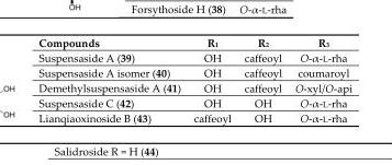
<table><tbody><tr><td>Compounds</td><td>R<sub>1</sub></td><td>R<sub>2</sub></td><td>R<sub>3</sub></td></tr><tr><td>Suspensaside A (39)</td><td>OH</td><td>caffeoyl</td><td>O-α-L-rha</td></tr><tr><td>Suspensaside A isomer (40)</td><td>OH</td><td>caffeoyl</td><td>coumaroyl</td></tr><tr><td>Demethylsuspensaside A (41)</td><td>OH</td><td>caffeoyl</td><td>O-xyl/O-api</td></tr><tr><td>Suspensaside C (42)</td><td>OH</td><td>OH</td><td>O-α-L-rha</td></tr><tr><td>Lianqiaoxinoside B (43)</td><td>caffeoyl</td><td>OH</td><td>O-α-L-rha</td></tr></tbody></table>